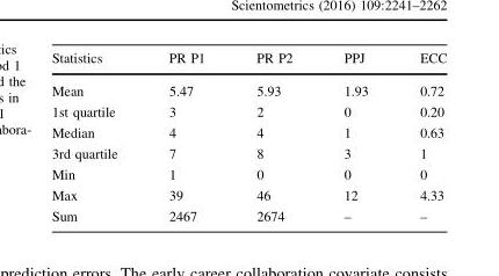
<table><thead><tr><td>Statistics</td><td>PR P1</td><td>PR P2</td><td>PPJ</td><td>ECC</td></tr></thead><tbody><tr><td>Mean</td><td>5.47</td><td>5.93</td><td>1.93</td><td>0.72</td></tr><tr><td>1st quartile</td><td>3</td><td>2</td><td>0</td><td>0.20</td></tr><tr><td>Median</td><td>4</td><td>4</td><td>1</td><td>0.63</td></tr><tr><td>3rd quartile</td><td>7</td><td>8</td><td>3</td><td>1</td></tr><tr><td>Min</td><td>1</td><td>0</td><td>0</td><td>0</td></tr><tr><td>Max</td><td>39</td><td>46</td><td>12</td><td>4.33</td></tr><tr><td>Sum</td><td>2467</td><td>2674</td><td>–</td><td>–</td></tr></tbody></table>